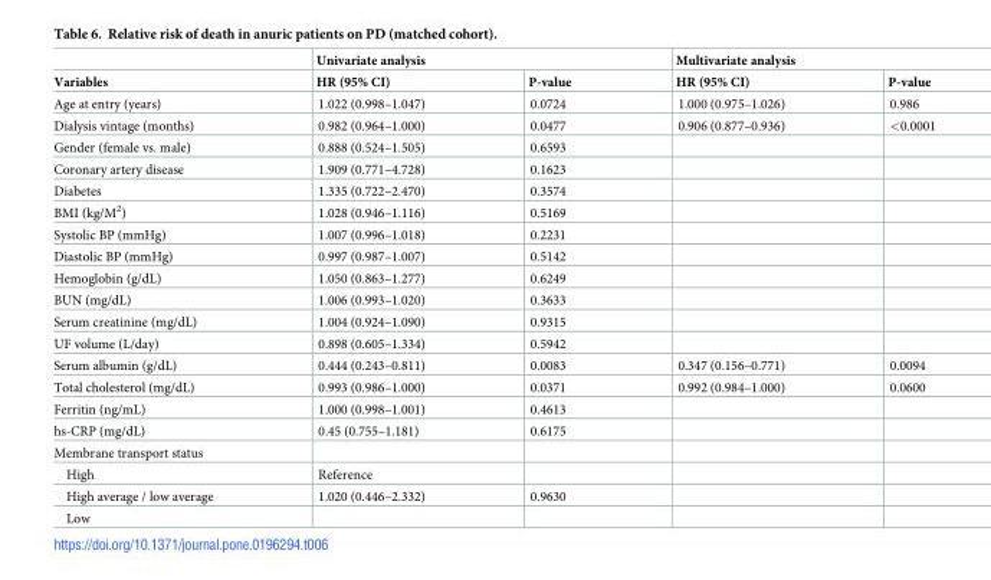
<table><thead><tr><td rowspan="2">Variables</td><td colspan="2">Univariate analysis</td><td colspan="2">Multivariate analysis</td></tr><tr><td>HR (95% CI)</td><td>P-value</td><td>HR (95% CI)</td><td>P-value</td></tr></thead><tbody><tr><td>Age at entry (years)</td><td>1.022 (0.998–1.047)</td><td>0.0724</td><td>1.000 (0.975–1.026)</td><td>0.986</td></tr><tr><td>Dialysis vintage (months)</td><td>0.982 (0.964–1.000)</td><td>0.0477</td><td>0.906 (0.877–0.936)</td><td>&lt;0.0001</td></tr><tr><td>Gender (female vs. male)</td><td>0.888 (0.524–1.505)</td><td>0.6593</td><td></td><td></td></tr><tr><td>Coronary artery disease</td><td>1.909 (0.771–4.728)</td><td>0.1623</td><td></td><td></td></tr><tr><td>Diabetes</td><td>1.335 (0.722–2.470)</td><td>0.3574</td><td></td><td></td></tr><tr><td>BMI (kg/M<sup>2</sup>)</td><td>1.028 (0.946–1.116)</td><td>0.5169</td><td></td><td></td></tr><tr><td>Systolic BP (mmHg)</td><td>1.007 (0.996–1.018)</td><td>0.2231</td><td></td><td></td></tr><tr><td>Diastolic BP (mmHg)</td><td>0.997 (0.987–1.007)</td><td>0.5142</td><td></td><td></td></tr><tr><td>Hemoglobin (g/dL)</td><td>1.050 (0.863–1.277)</td><td>0.6249</td><td></td><td></td></tr><tr><td>BUN (mg/dL)</td><td>1.006 (0.993–1.020)</td><td>0.3633</td><td></td><td></td></tr><tr><td>Serum creatinine (mg/dL)</td><td>1.004 (0.924–1.090)</td><td>0.9315</td><td></td><td></td></tr><tr><td>UF volume (L/day)</td><td>0.898 (0.605–1.334)</td><td>0.5942</td><td></td><td></td></tr><tr><td>Serum albumin (g/dL)</td><td>0.444 (0.243–0.811)</td><td>0.0083</td><td>0.347 (0.156–0.771)</td><td>0.0094</td></tr><tr><td>Total cholesterol (mg/dL)</td><td>0.993 (0.986–1.000)</td><td>0.0371</td><td>0.992 (0.984–1.000)</td><td>0.0600</td></tr><tr><td>Ferritin (ng/mL)</td><td>1.000 (0.998–1.001)</td><td>0.4613</td><td></td><td></td></tr><tr><td>hs-CRP (mg/dL)</td><td>0.45 (0.755–1.181)</td><td>0.6175</td><td></td><td></td></tr><tr><td colspan="5">Membrane transport status</td></tr><tr><td>High</td><td>Reference</td><td></td><td></td><td></td></tr><tr><td>High average / low average</td><td>1.020 (0.446–2.332)</td><td>0.9630</td><td></td><td></td></tr><tr><td>Low</td><td></td><td></td><td></td><td></td></tr></tbody></table>